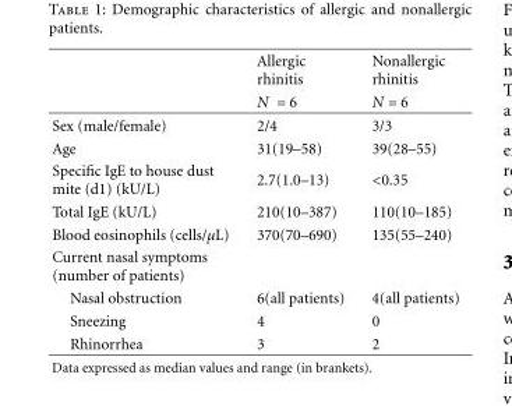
<table><thead><tr><td rowspan="2"></td><td rowspan="2">Allergic rhinitis N = 6</td><td rowspan="2">Nonallergic rhinitis N = 6</td></tr><tr></tr></thead><tbody><tr><td>Sex (male/female)</td><td>2/4</td><td>3/3</td></tr><tr><td>Age</td><td>31(19–58)</td><td>39(28–55)</td></tr><tr><td>Specific IgE to house dust mite (d1) (kU/L)</td><td>2.7(1.0–13)</td><td>&lt;0.35</td></tr><tr><td>Total IgE (kU/L)</td><td>210(10–387)</td><td>110(10–185)</td></tr><tr><td>Blood eosinophils (cells/μL)</td><td>370(70–690)</td><td>135(55–240)</td></tr><tr><td colspan="3">Current nasal symptoms (number of patients)</td></tr><tr><td>Nasal obstruction</td><td>6(all patients)</td><td>4(all patients)</td></tr><tr><td>Sneezing</td><td>4</td><td>0</td></tr><tr><td>Rhinorrhea</td><td>3</td><td>2</td></tr></tbody></table>